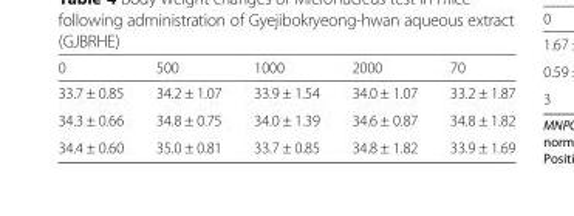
<table><thead><tr><td>0</td><td>500</td><td>1000</td><td>2000</td><td>70</td></tr></thead><tbody><tr><td>33.7 ± 0.85</td><td>34.2 ± 1.07</td><td>33.9 ± 1.54</td><td>34.0 ± 1.07</td><td>33.2 ± 1.87</td></tr><tr><td>34.3 ± 0.66</td><td>34.8 ± 0.75</td><td>34.0 ± 1.39</td><td>34.6 ± 0.87</td><td>34.8 ± 1.82</td></tr><tr><td>34.4 ± 0.60</td><td>35.0 ± 0.81</td><td>33.7 ± 0.85</td><td>34.8 ± 1.82</td><td>33.9 ± 1.69</td></tr></tbody></table>